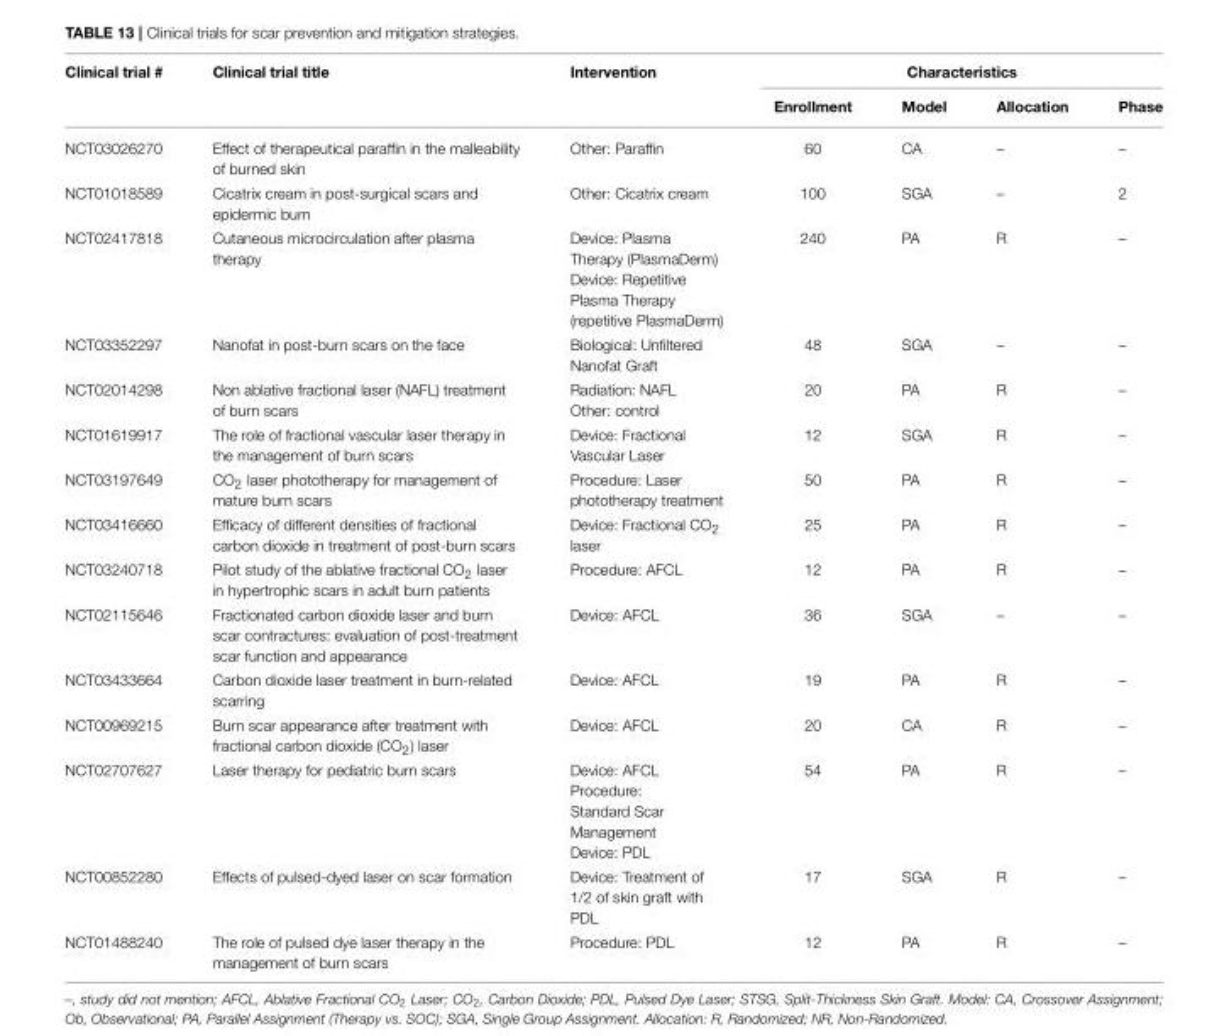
<table><thead><tr><td rowspan="2">Clinical trial #</td><td rowspan="2">Clinical trial title</td><td rowspan="2">Intervention</td><td colspan="4">Characteristics</td></tr><tr><td>Enrollment</td><td>Model</td><td>Allocation</td><td>Phase</td></tr></thead><tbody><tr><td>NCT03026270</td><td>Effect of therapeutical paraffin in the malleability of burned skin</td><td>Other: Paraffin</td><td>60</td><td>CA</td><td>–</td><td>–</td></tr><tr><td>NCT01018589</td><td>Cicatrix cream in post-surgical scars and epidermic burn</td><td>Other: Cicatrix cream</td><td>100</td><td>SGA</td><td>–</td><td>2</td></tr><tr><td>NCT02417818</td><td>Cutaneous microcirculation after plasma therapy</td><td>Device: Plasma Therapy (PlasmaDerm) Device: Repetitive Plasma Therapy (repetitive PlasmaDerm)</td><td>240</td><td>PA</td><td>R</td><td>–</td></tr><tr><td>NCT03352297</td><td>Nanofat in post-burn scars on the face</td><td>Biological: Unfiltered Nanofat Graft</td><td>48</td><td>SGA</td><td>–</td><td>–</td></tr><tr><td>NCT02014298</td><td>Non ablative fractional laser (NAFL) treatment of burn scars</td><td>Radiation: NAFL Other: control</td><td>20</td><td>PA</td><td>R</td><td>–</td></tr><tr><td>NCT01619917</td><td>The role of fractional vascular laser therapy in the management of burn scars</td><td>Device: Fractional Vascular Laser</td><td>12</td><td>SGA</td><td>R</td><td>–</td></tr><tr><td>NCT03197649</td><td>CO<sub>2</sub> laser phototherapy for management of mature burn scars</td><td>Procedure: Laser phototherapy treatment</td><td>50</td><td>PA</td><td>R</td><td>–</td></tr><tr><td>NCT03416660</td><td>Efficacy of different densities of fractional carbon dioxide in treatment of post-burn scars</td><td>Device: Fractional CO<sub>2</sub> laser</td><td>25</td><td>PA</td><td>R</td><td>–</td></tr><tr><td>NCT03240718</td><td>Pilot study of the ablative fractional CO<sub>2</sub> laser in hypertrophic scars in adult burn patients</td><td>Procedure: AFCL</td><td>12</td><td>PA</td><td>R</td><td>–</td></tr><tr><td>NCT02115646</td><td>Fractionated carbon dioxide laser and burn scar contractures: evaluation of post-treatment scar function and appearance</td><td>Device: AFCL</td><td>36</td><td>SGA</td><td>–</td><td>–</td></tr><tr><td>NCT03433664</td><td>Carbon dioxide laser treatment in burn-related scarring</td><td>Device: AFCL</td><td>19</td><td>PA</td><td>R</td><td>–</td></tr><tr><td>NCT00969215</td><td>Burn scar appearance after treatment with fractional carbon dioxide (CO<sub>2</sub>) laser</td><td>Device: AFCL</td><td>20</td><td>CA</td><td>R</td><td>–</td></tr><tr><td>NCT02707627</td><td>Laser therapy for pediatric burn scars</td><td>Device: AFCL Procedure: Standard Scar Management Device: PDL</td><td>54</td><td>PA</td><td>R</td><td>–</td></tr><tr><td>NCT00852280</td><td>Effects of pulsed-dyed laser on scar formation</td><td>Device: Treatment of 1/2 of skin graft with PDL</td><td>17</td><td>SGA</td><td>R</td><td>–</td></tr><tr><td>NCT01488240</td><td>The role of pulsed dye laser therapy in the management of burn scars</td><td>Procedure: PDL</td><td>12</td><td>PA</td><td>R</td><td>–</td></tr></tbody></table>